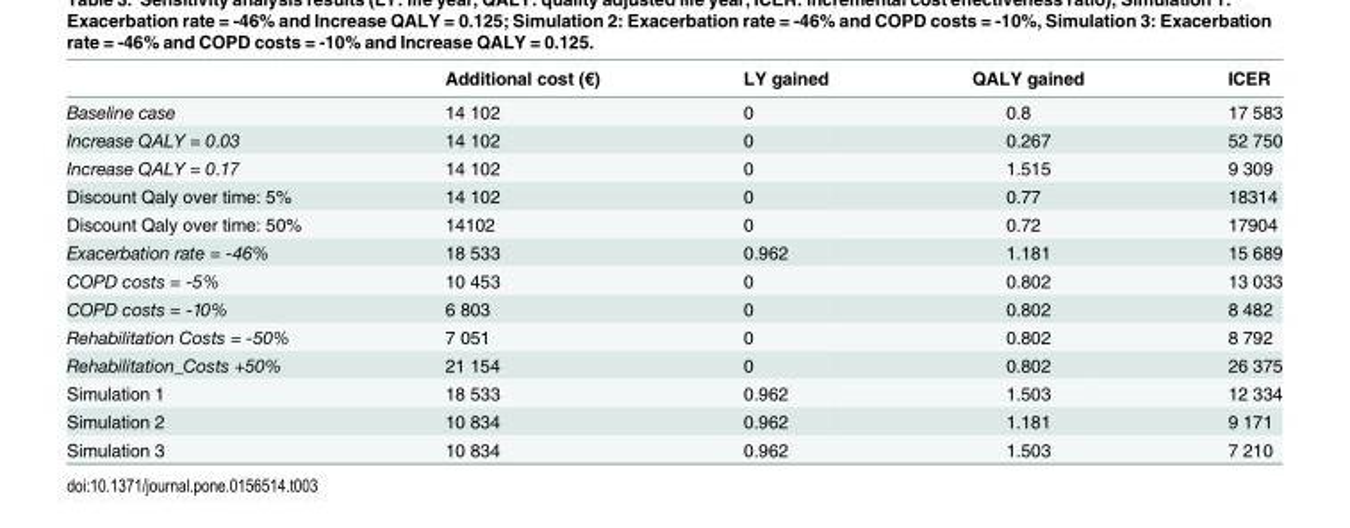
<table><thead><tr><td></td><td>Additional cost (€)</td><td>LY gained</td><td>QALY gained</td><td>ICER</td></tr></thead><tbody><tr><td>Baseline case</td><td>14 102</td><td>0</td><td>0.8</td><td>17 583</td></tr><tr><td>Increase QALY = 0.03</td><td>14 102</td><td>0</td><td>0.267</td><td>52 750</td></tr><tr><td>Increase QALY = 0.17</td><td>14 102</td><td>0</td><td>1.515</td><td>9 309</td></tr><tr><td>Discount Qaly over time: 5%</td><td>14 102</td><td>0</td><td>0.77</td><td>18314</td></tr><tr><td>Discount Qaly over time: 50%</td><td>14102</td><td>0</td><td>0.72</td><td>17904</td></tr><tr><td>Exacerbation rate = -46%</td><td>18 533</td><td>0.962</td><td>1.181</td><td>15 689</td></tr><tr><td>COPD costs = -5%</td><td>10 453</td><td>0</td><td>0.802</td><td>13 033</td></tr><tr><td>COPD costs = -10%</td><td>6 803</td><td>0</td><td>0.802</td><td>8 482</td></tr><tr><td>Rehabilitation Costs = -50%</td><td>7 051</td><td>0</td><td>0.802</td><td>8 792</td></tr><tr><td>Rehabilitation_Costs +50%</td><td>21 154</td><td>0</td><td>0.802</td><td>26 375</td></tr><tr><td>Simulation 1</td><td>18 533</td><td>0.962</td><td>1.503</td><td>12 334</td></tr><tr><td>Simulation 2</td><td>10 834</td><td>0.962</td><td>1.181</td><td>9 171</td></tr><tr><td>Simulation 3</td><td>10 834</td><td>0.962</td><td>1.503</td><td>7 210</td></tr></tbody></table>